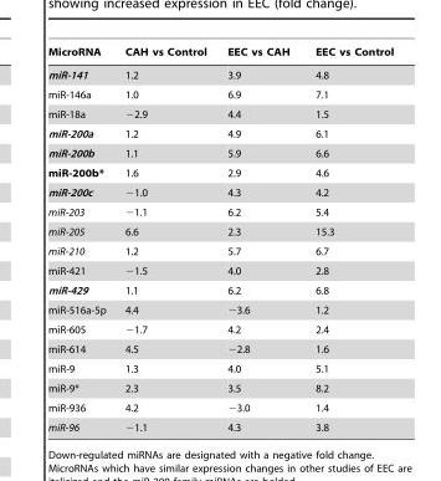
<table><thead><tr><td>MicroRNA</td><td>CAH vs Control</td><td>EEC vs CAH</td><td>EEC vs Control</td></tr></thead><tbody><tr><td>miR-141</td><td>1.2</td><td>3.9</td><td>4.8</td></tr><tr><td>miR-146a</td><td>1.0</td><td>6.9</td><td>7.1</td></tr><tr><td>miR-18a</td><td>−2.9</td><td>4.4</td><td>1.5</td></tr><tr><td>miR-200a</td><td>1.2</td><td>4.9</td><td>6.1</td></tr><tr><td>miR-200b</td><td>1.1</td><td>5.9</td><td>6.6</td></tr><tr><td>miR-200b*</td><td>1.6</td><td>2.9</td><td>4.6</td></tr><tr><td>miR-200c</td><td>−1.0</td><td>4.3</td><td>4.2</td></tr><tr><td>miR-203</td><td>−1.1</td><td>6.2</td><td>5.4</td></tr><tr><td>miR-205</td><td>6.6</td><td>2.3</td><td>15.3</td></tr><tr><td>miR-210</td><td>1.2</td><td>5.7</td><td>6.7</td></tr><tr><td>miR-421</td><td>−1.5</td><td>4.0</td><td>2.8</td></tr><tr><td>miR-429</td><td>1.1</td><td>6.2</td><td>6.8</td></tr><tr><td>miR-516a-5p</td><td>4.4</td><td>−3.6</td><td>1.2</td></tr><tr><td>miR-605</td><td>−1.7</td><td>4.2</td><td>2.4</td></tr><tr><td>miR-614</td><td>4.5</td><td>−2.8</td><td>1.6</td></tr><tr><td>miR-9</td><td>1.3</td><td>4.0</td><td>5.1</td></tr><tr><td>miR-9*</td><td>2.3</td><td>3.5</td><td>8.2</td></tr><tr><td>miR-936</td><td>4.2</td><td>−3.0</td><td>1.4</td></tr><tr><td>miR-96</td><td>−1.1</td><td>4.3</td><td>3.8</td></tr></tbody></table>